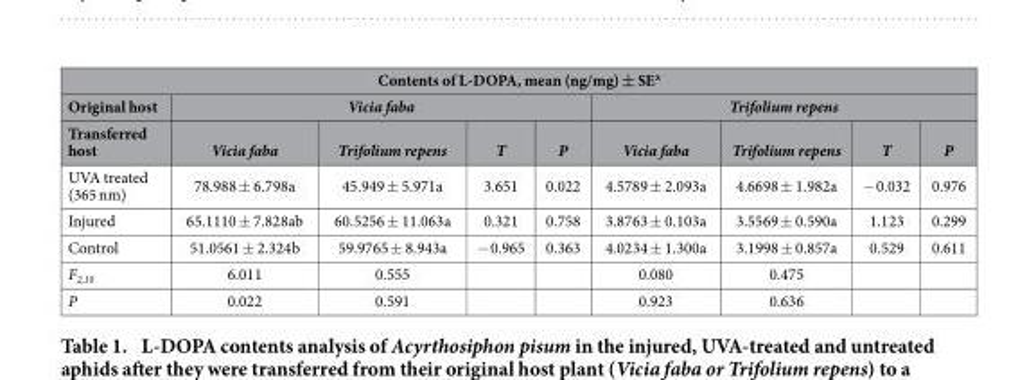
<table><thead><tr><td colspan="9">Contents of L-DOPA, mean (ng/mg) ± SE<sup>x</sup></td></tr><tr><td rowspan="2">Original host Transferred host</td><td colspan="4">Vicia faba</td><td colspan="4">Trifolium repens</td></tr><tr><td>Vicia faba</td><td>Trifolium repens</td><td>T</td><td>P</td><td>Vicia faba</td><td>Trifolium repens</td><td>T</td><td>P</td></tr></thead><tbody><tr><td>UVA treated (365 nm)</td><td>78.988 ± 6.798a</td><td>45.949 ± 5.971a</td><td>3.651</td><td>0.022</td><td>4.5789 ± 2.093a</td><td>4.6698 ± 1.982a</td><td>− 0.032</td><td>0.976</td></tr><tr><td>Injured</td><td>65.1110 ± 7.828ab</td><td>60.5256 ± 11.063a</td><td>0.321</td><td>0.758</td><td>3.8763 ± 0.103a</td><td>3.5569 ± 0.590a</td><td>1.123</td><td>0.299</td></tr><tr><td>Control</td><td>51.0561 ± 2.324b</td><td>59.9765 ± 8.943a</td><td>− 0.965</td><td>0.363</td><td>4.0234 ± 1.300a</td><td>3.1998 ± 0.857a</td><td>0.529</td><td>0.611</td></tr><tr><td>F<sub>2,10</sub></td><td>6.011</td><td>0.555</td><td></td><td></td><td>0.080</td><td>0.475</td><td></td><td></td></tr><tr><td>P</td><td>0.022</td><td>0.591</td><td></td><td></td><td>0.923</td><td>0.636</td><td></td><td></td></tr></tbody></table>